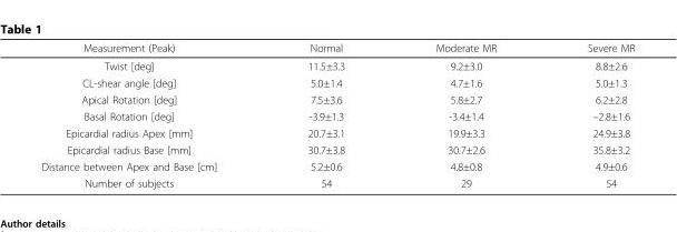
<table><thead><tr><td>Measurement (Peak)</td><td>Normal</td><td>Moderate MR</td><td>Severe MR</td></tr></thead><tbody><tr><td>Twist [deg]</td><td>11.5±3.3</td><td>9.2±3.0</td><td>8.8±2.6</td></tr><tr><td>CL-shear angle [deg]</td><td>5.0±1.4</td><td>4.7±1.6</td><td>5.0±1.3</td></tr><tr><td>Apical Rotation [deg]</td><td>7.5±3.6</td><td>5.8±2.7</td><td>6.2±2.8</td></tr><tr><td>Basal Rotation [deg]</td><td>-3.9±1.3</td><td>-3.4±1.4</td><td>–2.8±1.6</td></tr><tr><td>Epicardial radius Apex [mm]</td><td>20.7±3.1</td><td>19.9±3.3</td><td>24.9±3.8</td></tr><tr><td>Epicardial radius Base [mm]</td><td>30.7±3.8</td><td>30.7±2.6</td><td>35.8±3.2</td></tr><tr><td>Distance between Apex and Base [cm]</td><td>5.2±0.6</td><td>4.8±0.8</td><td>4.9±0.6</td></tr><tr><td>Number of subjects</td><td>54</td><td>29</td><td>54</td></tr></tbody></table>